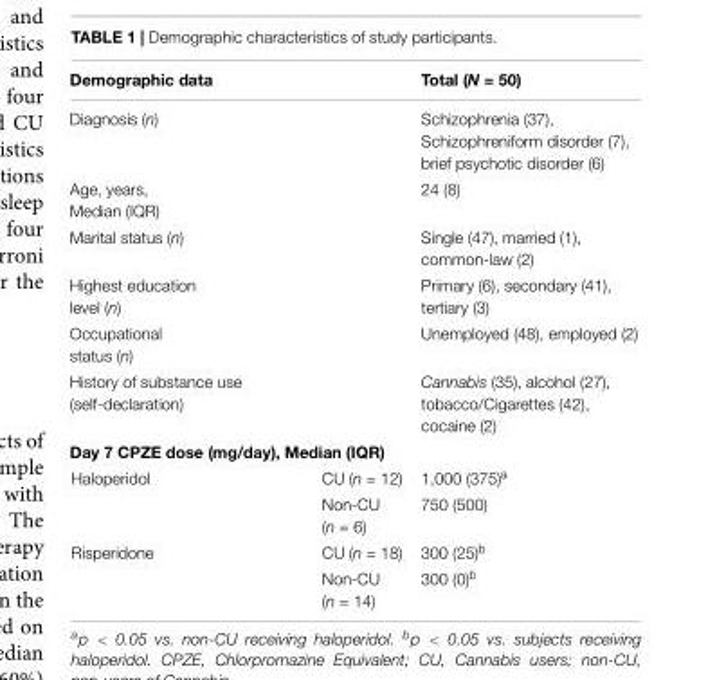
<table><thead><tr><td colspan="2">Demographic data</td><td rowspan="2">Total (N = 50) Schizophrenia (37), Schizophreniform disorder (7), brief psychotic disorder (6)</td></tr><tr><td>Diagnosis (n)</td><td></td></tr></thead><tbody><tr><td>Age, years, Median (IQR)</td><td></td><td>24 (8)</td></tr><tr><td>Marital status (n)</td><td></td><td>Single (47), married (1), common-law (2)</td></tr><tr><td>Highest education level (n)</td><td></td><td>Primary (6), secondary (41), tertiary (3)</td></tr><tr><td>Occupational status (n)</td><td></td><td>Unemployed (48), employed (2)</td></tr><tr><td>History of substance use (self-declaration)</td><td></td><td>Cannabis (35), alcohol (27), tobacco/Cigarettes (42), cocaine (2)</td></tr><tr><td colspan="3">Day 7 CPZE dose (mg/day), Median (IQR)</td></tr><tr><td rowspan="2">Haloperidol</td><td>CU (n = 12)</td><td>1,000 (375)<sup>a</sup></td></tr><tr><td>Non-CU (n = 6)</td><td>750 (500)</td></tr><tr><td rowspan="2">Risperidone</td><td>CU (n = 18)</td><td>300 (25)<sup>b</sup></td></tr><tr><td>Non-CU (n = 14)</td><td>300 (0)<sup>b</sup></td></tr></tbody></table>